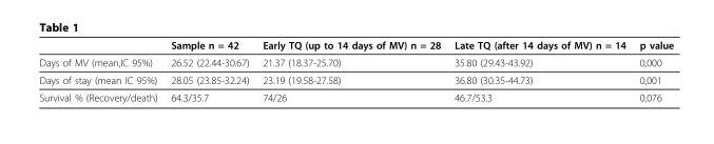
<table><thead><tr><td></td><td>Sample n = 42</td><td>Early TQ (up to 14 days of MV) n = 28</td><td>Late TQ (after 14 days of MV) n = 14</td><td>p value</td></tr></thead><tbody><tr><td>Days of MV (mean,IC 95%)</td><td>26.52 (22.44-30.67)</td><td>21.37 (18.37-25.70)</td><td>35.80 (29.43-43.92)</td><td>0,000</td></tr><tr><td>Days of stay (mean IC 95%)</td><td>28.05 (23.85-32.24)</td><td>23.19 (19.58-27.58)</td><td>36.80 (30.35-44.73)</td><td>0,001</td></tr><tr><td>Survival % (Recovery/death)</td><td>64.3/35.7</td><td>74/26</td><td>46.7/53.3</td><td>0,076</td></tr></tbody></table>